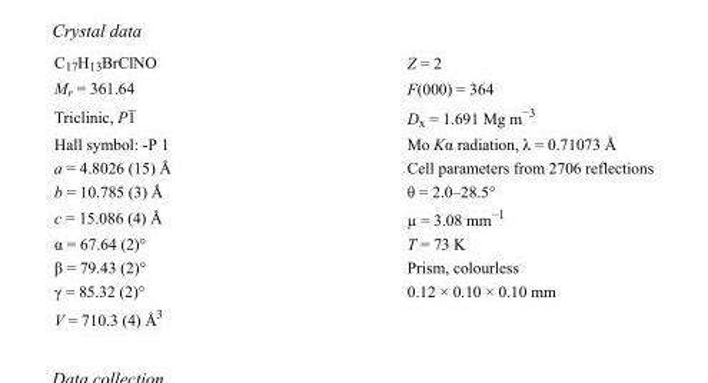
<table><tbody><tr><td>C<sub>17</sub>H<sub>13</sub>BrClNO</td><td>Z = 2</td></tr><tr><td>M<sub>r</sub> = 361.64</td><td>F(000) = 364</td></tr><tr><td>Triclinic, P1</td><td>D<sub>x</sub> = 1.691 Mg m<sup>−3</sup></td></tr><tr><td>Hall symbol: -P 1</td><td>Mo Kα radiation, λ = 0.71073 Å</td></tr><tr><td>a = 4.8026 (15) Å</td><td>Cell parameters from 2706 reflections</td></tr><tr><td>b = 10.785 (3) Å</td><td>θ = 2.0–28.5°</td></tr><tr><td>c = 15.086 (4) Å</td><td>µ = 3.08 mm<sup>−1</sup></td></tr><tr><td>α = 67.64 (2)°</td><td>T = 73 K</td></tr><tr><td>β = 79.43 (2)°</td><td>Prism, colourless</td></tr><tr><td>γ = 85.32 (2)°</td><td>0.12 × 0.10 × 0.10 mm</td></tr><tr><td>V = 710.3 (4) Å<sup>3</sup></td><td></td></tr></tbody></table>